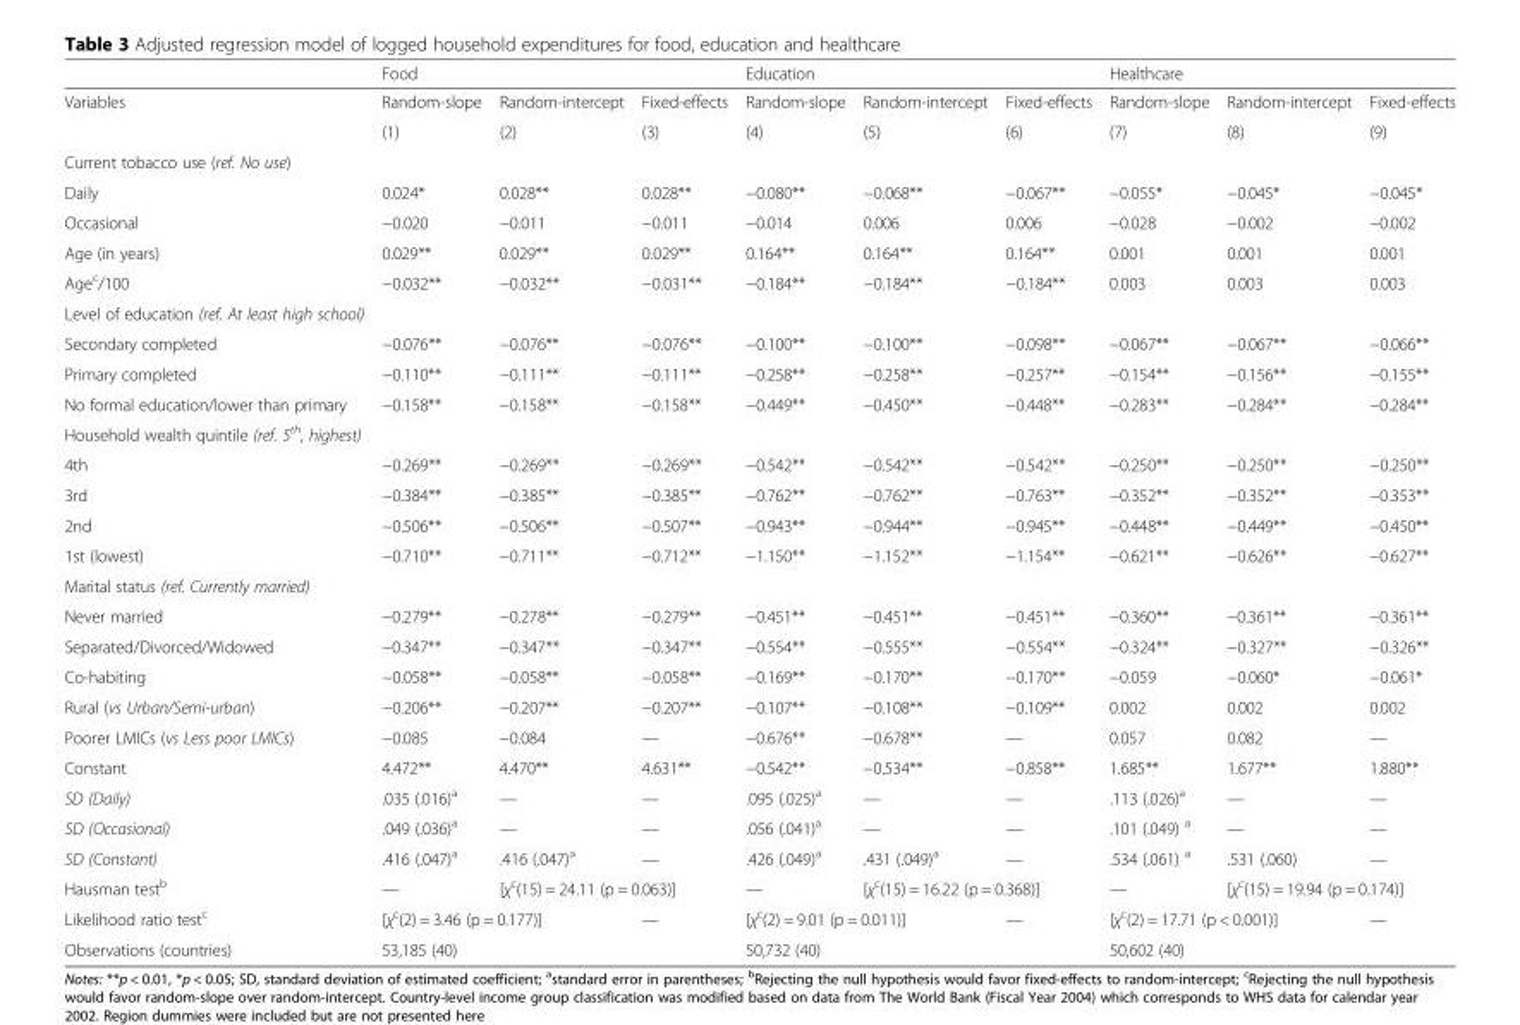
<table><thead><tr><td rowspan="2">Variables</td><td colspan="3">Food</td><td colspan="3">Education</td><td colspan="3">Healthcare</td></tr><tr><td>Random-slope</td><td>Random-intercept</td><td>Fixed-effects</td><td>Random-slope</td><td>Random-intercept</td><td>Fixed-effects</td><td>Random-slope</td><td>Random-intercept</td><td>Fixed-effects</td></tr></thead><tbody><tr><td></td><td>(1)</td><td>(2)</td><td>(3)</td><td>(4)</td><td>(5)</td><td>(6)</td><td>(7)</td><td>(8)</td><td>(9)</td></tr><tr><td colspan="10">Current tobacco use (ref. No use)</td></tr><tr><td>Daily</td><td>0.024*</td><td>0.028**</td><td>0.028**</td><td>−0.080**</td><td>−0.068**</td><td>−0.067**</td><td>−0.055*</td><td>−0.045*</td><td>−0.045*</td></tr><tr><td>Occasional</td><td>−0.020</td><td>−0.011</td><td>−0.011</td><td>−0.014</td><td>0.006</td><td>0.006</td><td>−0.028</td><td>−0.002</td><td>−0.002</td></tr><tr><td>Age (in years)</td><td>0.029**</td><td>0.029**</td><td>0.029**</td><td>0.164**</td><td>0.164**</td><td>0.164**</td><td>0.001</td><td>0.001</td><td>0.001</td></tr><tr><td>Age<sup>c</sup>/100</td><td>−0.032**</td><td>−0.032**</td><td>−0.031**</td><td>−0.184**</td><td>−0.184**</td><td>−0.184**</td><td>0.003</td><td>0.003</td><td>0.003</td></tr><tr><td colspan="10">Level of education (ref. At least high school)</td></tr><tr><td>Secondary completed</td><td>−0.076**</td><td>−0.076**</td><td>−0.076**</td><td>−0.100**</td><td>−0.100**</td><td>−0.098**</td><td>−0.067**</td><td>−0.067**</td><td>−0.066**</td></tr><tr><td>Primary completed</td><td>−0.110**</td><td>−0.111**</td><td>−0.111**</td><td>−0.258**</td><td>−0.258**</td><td>−0.257**</td><td>−0.154**</td><td>−0.156**</td><td>−0.155**</td></tr><tr><td>No formal education/lower than primary</td><td>−0.158**</td><td>−0.158**</td><td>−0.158**</td><td>−0.449**</td><td>−0.450**</td><td>−0.448**</td><td>−0.283**</td><td>−0.284**</td><td>−0.284**</td></tr><tr><td colspan="10">Household wealth quintile (ref. 5<sup>th</sup>, highest)</td></tr><tr><td>4th</td><td>−0.269**</td><td>−0.269**</td><td>−0.269**</td><td>−0.542**</td><td>−0.542**</td><td>−0.542**</td><td>−0.250**</td><td>−0.250**</td><td>−0.250**</td></tr><tr><td>3rd</td><td>−0.384**</td><td>−0.385**</td><td>−0.385**</td><td>−0.762**</td><td>−0.762**</td><td>−0.763**</td><td>−0.352**</td><td>−0.352**</td><td>−0.353**</td></tr><tr><td>2nd</td><td>−0.506**</td><td>−0.506**</td><td>−0.507**</td><td>−0.943**</td><td>−0.944**</td><td>−0.945**</td><td>−0.448**</td><td>−0.449**</td><td>−0.450**</td></tr><tr><td>1st (lowest)</td><td>−0.710**</td><td>−0.711**</td><td>−0.712**</td><td>−1.150**</td><td>−1.152**</td><td>−1.154**</td><td>−0.621**</td><td>−0.626**</td><td>−0.627**</td></tr><tr><td colspan="10">Marital status (ref. Currently married)</td></tr><tr><td>Never married</td><td>−0.279**</td><td>−0.278**</td><td>−0.279**</td><td>−0.451**</td><td>−0.451**</td><td>−0.451**</td><td>−0.360**</td><td>−0.361**</td><td>−0.361**</td></tr><tr><td>Separated/Divorced/Widowed</td><td>−0.347**</td><td>−0.347**</td><td>−0.347**</td><td>−0.554**</td><td>−0.555**</td><td>−0.554**</td><td>−0.324**</td><td>−0.327**</td><td>−0.326**</td></tr><tr><td>Co-habiting</td><td>−0.058**</td><td>−0.058**</td><td>−0.058**</td><td>−0.169**</td><td>−0.170**</td><td>−0.170**</td><td>−0.059</td><td>−0.060*</td><td>−0.061*</td></tr><tr><td>Rural (vs Urban/Semi-urban)</td><td>−0.206**</td><td>−0.207**</td><td>−0.207**</td><td>−0.107**</td><td>−0.108**</td><td>−0.109**</td><td>0.002</td><td>0.002</td><td>0.002</td></tr><tr><td>Poorer LMICs (vs Less poor LMICs)</td><td>−0.085</td><td>−0.084</td><td>—</td><td>−0.676**</td><td>−0.678**</td><td>—</td><td>0.057</td><td>0.082</td><td>—</td></tr><tr><td>Constant</td><td>4.472**</td><td>4.470**</td><td>4.631**</td><td>−0.542**</td><td>−0.534**</td><td>−0.858**</td><td>1.685**</td><td>1.677**</td><td>1.880**</td></tr><tr><td>SD (Daily)</td><td>.035 (.016)<sup>a</sup></td><td>—</td><td>—</td><td>.095 (.025)<sup>a</sup></td><td>—</td><td>—</td><td>.113 (.026)<sup>a</sup></td><td>—</td><td>—</td></tr><tr><td>SD (Occasional)</td><td>.049 (.036)<sup>a</sup></td><td>—</td><td>—</td><td>.056 (.041)<sup>a</sup></td><td>—</td><td>—</td><td>.101 (.049) <sup>a</sup></td><td>—</td><td>—</td></tr><tr><td>SD (Constant)</td><td>.416 (.047)<sup>a</sup></td><td>.416 (.047)<sup>a</sup></td><td>—</td><td>.426 (.049)<sup>a</sup></td><td>.431 (.049)<sup>a</sup></td><td>—</td><td>.534 (.061) <sup>a</sup></td><td>.531 (.060)</td><td>—</td></tr><tr><td>Hausman test<sup>b</sup></td><td>—</td><td colspan="2">[χ<sup>c</sup>(15) = 24.11 (p = 0.063)]</td><td>—</td><td colspan="2">[χ<sup>c</sup>(15) = 16.22 (p = 0.368)]</td><td>—</td><td colspan="2">[χ<sup>c</sup>(15) = 19.94 (p = 0.174)]</td></tr><tr><td>Likelihood ratio test<sup>c</sup></td><td colspan="2">[χ<sup>c</sup>(2) = 3.46 (p = 0.177)]</td><td>—</td><td colspan="2">[χ<sup>c</sup>(2) = 9.01 (p = 0.011)]</td><td>—</td><td colspan="2">[χ<sup>c</sup>(2) = 17.71 (p &lt; 0.001)]</td><td>—</td></tr><tr><td>Observations (countries)</td><td colspan="3">53,185 (40)</td><td colspan="3">50,732 (40)</td><td colspan="3">50,602 (40)</td></tr></tbody></table>